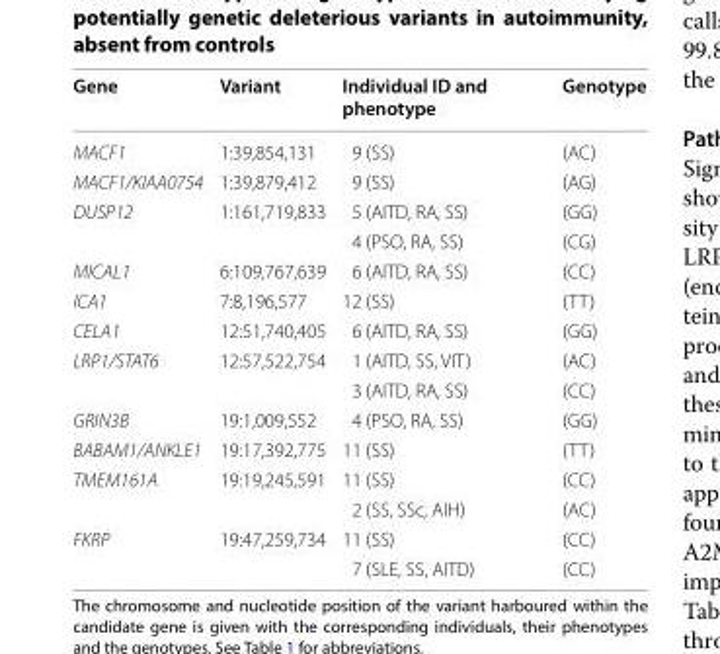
<table><thead><tr><td>Gene</td><td>Variant</td><td>Individual ID and phenotype</td><td>Genotype</td></tr></thead><tbody><tr><td>MACF1</td><td>1:39,854,131</td><td>9 (SS)</td><td>(AC)</td></tr><tr><td>MACF1/KIAA0754</td><td>1:39,879,412</td><td>9 (SS)</td><td>(AG)</td></tr><tr><td rowspan="2">DUSP12</td><td rowspan="2">1:161,719,833</td><td>5 (AITD, RA, SS)</td><td>(GG)</td></tr><tr><td>4 (PSO, RA, SS)</td><td>(CG)</td></tr><tr><td>MICAL1</td><td>6:109,767,639</td><td>6 (AITD, RA, SS)</td><td>(CC)</td></tr><tr><td>ICA1</td><td>7:8,196,577</td><td>12 (SS)</td><td>(TT)</td></tr><tr><td>CELA1</td><td>12:51,740,405</td><td>6 (AITD, RA, SS)</td><td>(GG)</td></tr><tr><td rowspan="2">LRP1/STAT6</td><td rowspan="2">12:57,522,754</td><td>1 (AITD, SS, VIT)</td><td>(AC)</td></tr><tr><td>3 (AITD, RA, SS)</td><td>(CC)</td></tr><tr><td>GRIN3B</td><td>19:1,009,552</td><td>4 (PSO, RA, SS)</td><td>(GG)</td></tr><tr><td>BABAM1/ANKLE1</td><td>19:17,392,775</td><td>11 (SS)</td><td>(TT)</td></tr><tr><td rowspan="2">TMEM161A</td><td rowspan="2">19:19,245,591</td><td>11 (SS)</td><td>(CC)</td></tr><tr><td>2 (SS, SSc, AIH)</td><td>(AC)</td></tr><tr><td rowspan="2">FKRP</td><td rowspan="2">19:47,259,734</td><td>11 (SS)</td><td>(CC)</td></tr><tr><td>7 (SLE, SS, AITD)</td><td>(CC)</td></tr></tbody></table>